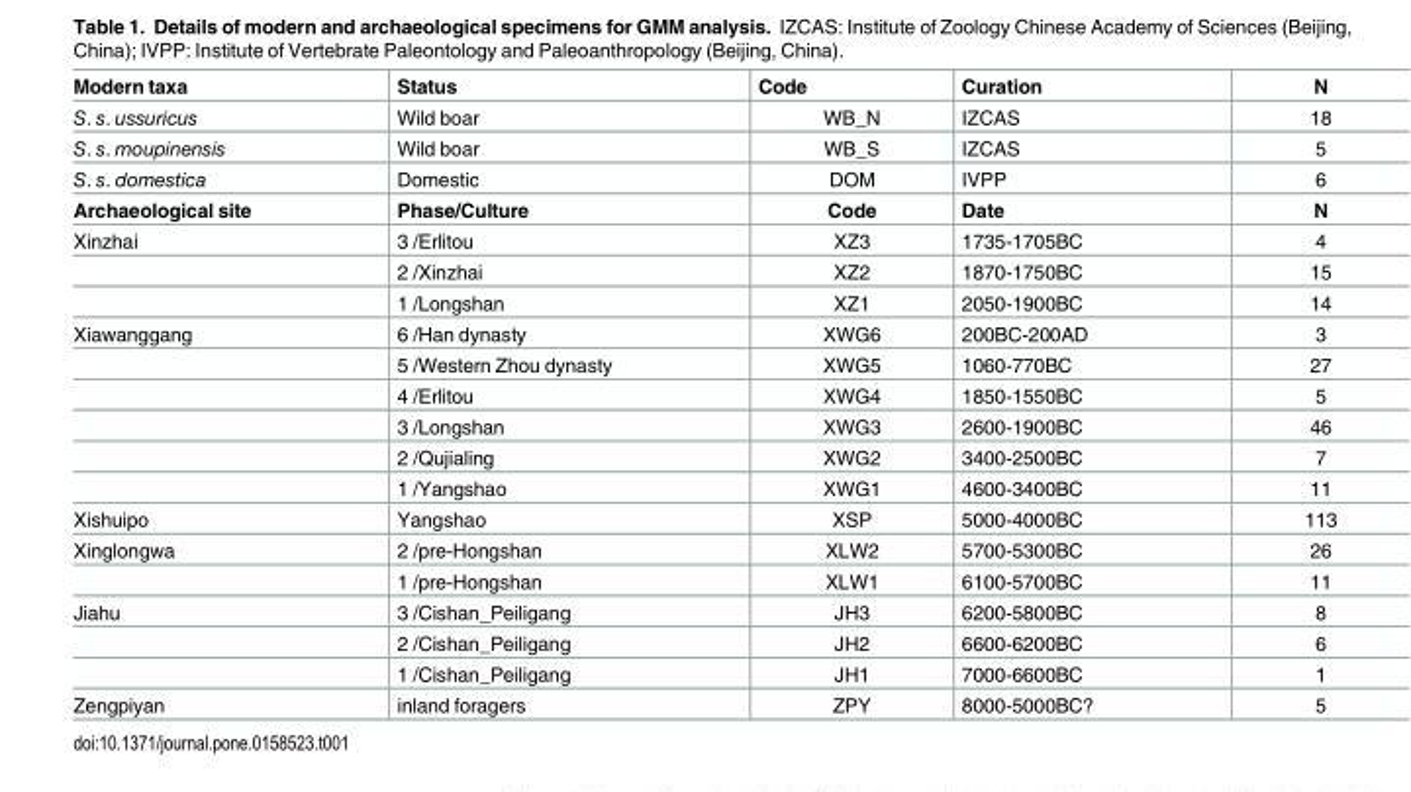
<table><tbody><tr><td>Modern taxa</td><td>Status</td><td>Code</td><td>Curation</td><td>N</td></tr><tr><td>S. s. ussuricus</td><td>Wild boar</td><td>WB_N</td><td>IZCAS</td><td>18</td></tr><tr><td>S. s. moupinensis</td><td>Wild boar</td><td>WB_S</td><td>IZCAS</td><td>5</td></tr><tr><td>S. s. domestica</td><td>Domestic</td><td>DOM</td><td>IVPP</td><td>6</td></tr><tr><td>Archaeological site</td><td>Phase/Culture</td><td>Code</td><td>Date</td><td>N</td></tr><tr><td rowspan="3">Xinzhai</td><td>3 /Erlitou</td><td>XZ3</td><td>1735-1705BC</td><td>4</td></tr><tr><td>2 /Xinzhai</td><td>XZ2</td><td>1870-1750BC</td><td>15</td></tr><tr><td>1 /Longshan</td><td>XZ1</td><td>2050-1900BC</td><td>14</td></tr><tr><td rowspan="6">Xiawanggang</td><td>6 /Han dynasty</td><td>XWG6</td><td>200BC-200AD</td><td>3</td></tr><tr><td>5 /Western Zhou dynasty</td><td>XWG5</td><td>1060-770BC</td><td>27</td></tr><tr><td>4 /Erlitou</td><td>XWG4</td><td>1850-1550BC</td><td>5</td></tr><tr><td>3 /Longshan</td><td>XWG3</td><td>2600-1900BC</td><td>46</td></tr><tr><td>2 /Qujialing</td><td>XWG2</td><td>3400-2500BC</td><td>7</td></tr><tr><td>1 /Yangshao</td><td>XWG1</td><td>4600-3400BC</td><td>11</td></tr><tr><td>Xishuipo</td><td>Yangshao</td><td>XSP</td><td>5000-4000BC</td><td>113</td></tr><tr><td rowspan="2">Xinglongwa</td><td>2 /pre-Hongshan</td><td>XLW2</td><td>5700-5300BC</td><td>26</td></tr><tr><td>1 /pre-Hongshan</td><td>XLW1</td><td>6100-5700BC</td><td>11</td></tr><tr><td rowspan="3">Jiahu</td><td>3 /Cishan_Peiligang</td><td>JH3</td><td>6200-5800BC</td><td>8</td></tr><tr><td>2 /Cishan_Peiligang</td><td>JH2</td><td>6600-6200BC</td><td>6</td></tr><tr><td>1 /Cishan_Peiligang</td><td>JH1</td><td>7000-6600BC</td><td>1</td></tr><tr><td>Zengpiyan</td><td>inland foragers</td><td>ZPY</td><td>8000-5000BC?</td><td>5</td></tr></tbody></table>